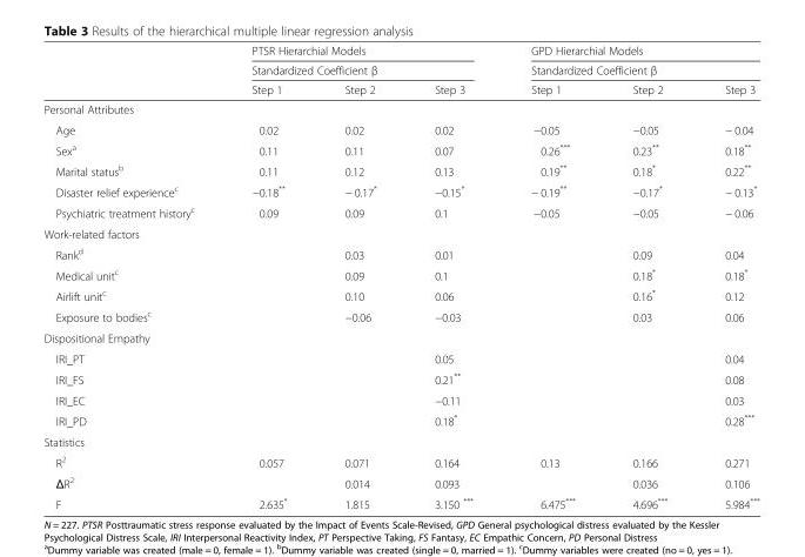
<table><thead><tr><td rowspan="3"></td><td rowspan="2" colspan="3">PTSR Hierarchial Models Standardized Coefficient β</td><td rowspan="2" colspan="3">GPD Hierarchial Models Standardized Coefficient β</td></tr><tr></tr><tr><td>Step 1</td><td>Step 2</td><td>Step 3</td><td>Step 1</td><td>Step 2</td><td>Step 3</td></tr></thead><tbody><tr><td colspan="7">Personal Attributes</td></tr><tr><td>Age</td><td>0.02</td><td>0.02</td><td>0.02</td><td>−0.05</td><td>−0.05</td><td>− 0.04</td></tr><tr><td>Sex<sup>a</sup></td><td>0.11</td><td>0.11</td><td>0.07</td><td>0.26***</td><td>0.23**</td><td>0.18**</td></tr><tr><td>Marital status<sup>b</sup></td><td>0.11</td><td>0.12</td><td>0.13</td><td>0.19**</td><td>0.18*</td><td>0.22**</td></tr><tr><td>Disaster relief experience<sup>c</sup></td><td>−0.18**</td><td>− 0.17*</td><td>−0.15*</td><td>− 0.19**</td><td>−0.17*</td><td>− 0.13*</td></tr><tr><td>Psychiatric treatment history<sup>c</sup></td><td>0.09</td><td>0.09</td><td>0.1</td><td>−0.05</td><td>−0.05</td><td>− 0.06</td></tr><tr><td colspan="7">Work-related factors</td></tr><tr><td>Rank<sup>d</sup></td><td></td><td>0.03</td><td>0.01</td><td></td><td>0.09</td><td>0.04</td></tr><tr><td>Medical unit<sup>c</sup></td><td></td><td>0.09</td><td>0.1</td><td></td><td>0.18*</td><td>0.18*</td></tr><tr><td>Airlift unit<sup>c</sup></td><td></td><td>0.10</td><td>0.06</td><td></td><td>0.16*</td><td>0.12</td></tr><tr><td>Exposure to bodies<sup>c</sup></td><td></td><td>−0.06</td><td>−0.03</td><td></td><td>0.03</td><td>0.06</td></tr><tr><td colspan="7">Dispositional Empathy</td></tr><tr><td>IRI_PT</td><td></td><td></td><td>0.05</td><td></td><td></td><td>0.04</td></tr><tr><td>IRI_FS</td><td></td><td></td><td>0.21**</td><td></td><td></td><td>0.08</td></tr><tr><td>IRI_EC</td><td></td><td></td><td>−0.11</td><td></td><td></td><td>0.03</td></tr><tr><td>IRI_PD</td><td></td><td></td><td>0.18*</td><td></td><td></td><td>0.28***</td></tr><tr><td colspan="7">Statistics</td></tr><tr><td>R<sup>2</sup></td><td>0.057</td><td>0.071</td><td>0.164</td><td>0.13</td><td>0.166</td><td>0.271</td></tr><tr><td>ΔR<sup>2</sup></td><td></td><td>0.014</td><td>0.093</td><td></td><td>0.036</td><td>0.106</td></tr><tr><td>F</td><td>2.635*</td><td>1.815</td><td>3.150 ***</td><td>6.475***</td><td>4.696***</td><td>5.984***</td></tr></tbody></table>